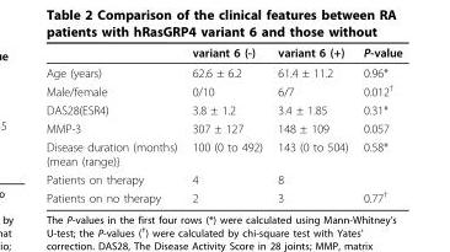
<table><thead><tr><td></td><td>variant 6 (-)</td><td>variant 6 (+)</td><td>P-value</td></tr></thead><tbody><tr><td>Age (years)</td><td>62.6 ± 6.2</td><td>61.4 ± 11.2</td><td>0.96*</td></tr><tr><td>Male/female</td><td>0/10</td><td>6/7</td><td>0.012<sup>†</sup></td></tr><tr><td>DAS28(ESR4)</td><td>3.8 ± 1.2</td><td>3.4 ± 1.85</td><td>0.31*</td></tr><tr><td>MMP-3</td><td>307 ± 127</td><td>148 ± 109</td><td>0.057</td></tr><tr><td>Disease duration (months) {mean (range)}</td><td>100 (0 to 492)</td><td>143 (0 to 504)</td><td>0.58*</td></tr><tr><td>Patients on therapy</td><td>4</td><td>8</td><td></td></tr><tr><td>Patients on no therapy</td><td>2</td><td>3</td><td>0.77<sup>†</sup></td></tr></tbody></table>